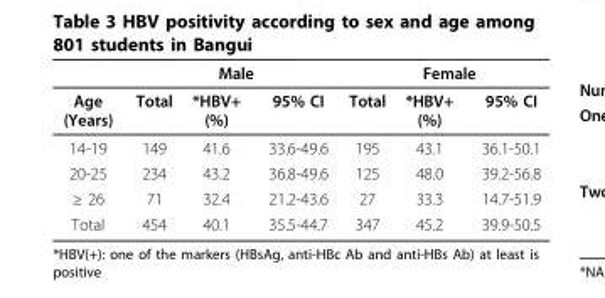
<table><thead><tr><td rowspan="2">Age (Years)</td><td colspan="3">Male</td><td colspan="3">Female</td></tr><tr><td>Total</td><td>*HBV+ (%)</td><td>95% CI</td><td>Total</td><td>*HBV+ (%)</td><td>95% CI</td></tr></thead><tbody><tr><td>14-19</td><td>149</td><td>41.6</td><td>33.6-49.6</td><td>195</td><td>43.1</td><td>36.1-50.1</td></tr><tr><td>20-25</td><td>234</td><td>43.2</td><td>36.8-49.6</td><td>125</td><td>48.0</td><td>39.2-56.8</td></tr><tr><td>≥ 26</td><td>71</td><td>32.4</td><td>21.2-43.6</td><td>27</td><td>33.3</td><td>14.7-51.9</td></tr><tr><td>Total</td><td>454</td><td>40.1</td><td>35.5-44.7</td><td>347</td><td>45.2</td><td>39.9-50.5</td></tr></tbody></table>